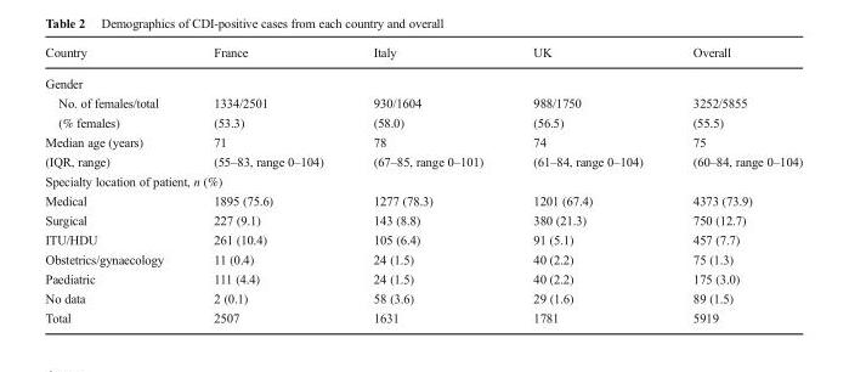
<table><thead><tr><td>Country</td><td>France</td><td>Italy</td><td>UK</td><td>Overall</td></tr></thead><tbody><tr><td colspan="5">Gender</td></tr><tr><td>No. of females/total</td><td>1334/2501</td><td>930/1604</td><td>988/1750</td><td>3252/5855</td></tr><tr><td>(% females)</td><td>(53.3)</td><td>(58.0)</td><td>(56.5)</td><td>(55.5)</td></tr><tr><td>Median age (years)</td><td>71</td><td>78</td><td>74</td><td>75</td></tr><tr><td>(IQR, range)</td><td>(55–83, range 0–104)</td><td>(67–85, range 0–101)</td><td>(61–84, range 0–104)</td><td>(60–84, range 0–104)</td></tr><tr><td colspan="5">Specialty location of patient, n (%)</td></tr><tr><td>Medical</td><td>1895 (75.6)</td><td>1277 (78.3)</td><td>1201 (67.4)</td><td>4373 (73.9)</td></tr><tr><td>Surgical</td><td>227 (9.1)</td><td>143 (8.8)</td><td>380 (21.3)</td><td>750 (12.7)</td></tr><tr><td>ITU/HDU</td><td>261 (10.4)</td><td>105 (6.4)</td><td>91 (5.1)</td><td>457 (7.7)</td></tr><tr><td>Obstetrics/gynaecology</td><td>11 (0.4)</td><td>24 (1.5)</td><td>40 (2.2)</td><td>75 (1.3)</td></tr><tr><td>Paediatric</td><td>111 (4.4)</td><td>24 (1.5)</td><td>40 (2.2)</td><td>175 (3.0)</td></tr><tr><td>No data</td><td>2 (0.1)</td><td>58 (3.6)</td><td>29 (1.6)</td><td>89 (1.5)</td></tr><tr><td>Total</td><td>2507</td><td>1631</td><td>1781</td><td>5919</td></tr></tbody></table>